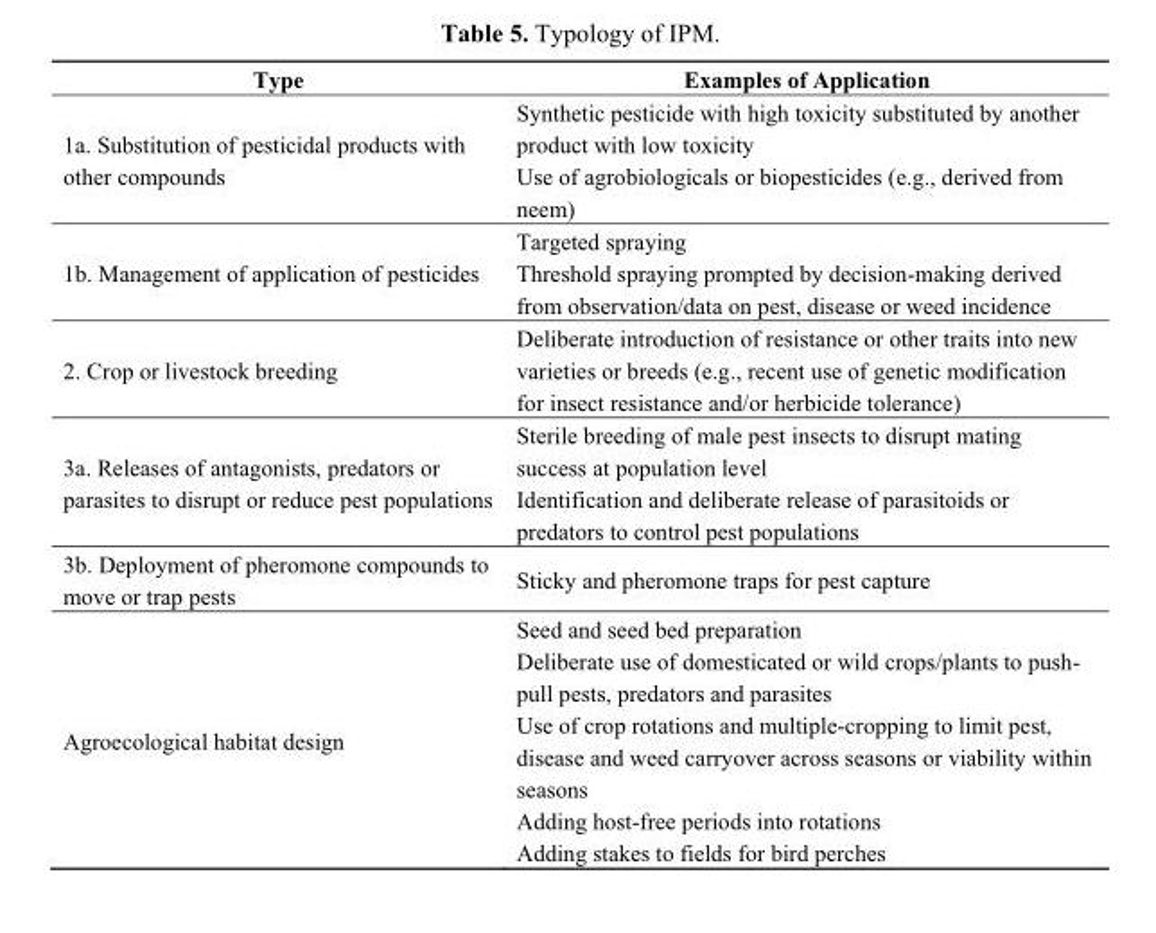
<table><thead><tr><td>Type</td><td>Examples of Application</td></tr></thead><tbody><tr><td rowspan="2">1a. Substitution of pesticidal products with other compounds</td><td>Synthetic pesticide with high toxicity substituted by another product with low toxicity</td></tr><tr><td>Use of agrobiologicals or biopesticides (e.g., derived from neem)</td></tr><tr><td rowspan="2">1b. Management of application of pesticides</td><td>Targeted spraying</td></tr><tr><td>Threshold spraying prompted by decision-making derived from observation/data on pest, disease or weed incidence</td></tr><tr><td>2. Crop or livestock breeding</td><td>Deliberate introduction of resistance or other traits into new varieties or breeds (e.g., recent use of genetic modification for insect resistance and/or herbicide tolerance)</td></tr><tr><td rowspan="2">3a. Releases of antagonists, predators or parasites to disrupt or reduce pest populations</td><td>Sterile breeding of male pest insects to disrupt mating success at population level</td></tr><tr><td>Identification and deliberate release of parasitoids or predators to control pest populations</td></tr><tr><td>3b. Deployment of pheromone compounds to move or trap pests</td><td>Sticky and pheromone traps for pest capture</td></tr><tr><td rowspan="5">Agroecological habitat design</td><td>Seed and seed bed preparation</td></tr><tr><td>Deliberate use of domesticated or wild crops/plants to push- pull pests, predators and parasites</td></tr><tr><td>Use of crop rotations and multiple-cropping to limit pest, disease and weed carryover across seasons or viability within seasons</td></tr><tr><td>Adding host-free periods into rotations</td></tr><tr><td>Adding stakes to fields for bird perches</td></tr></tbody></table>